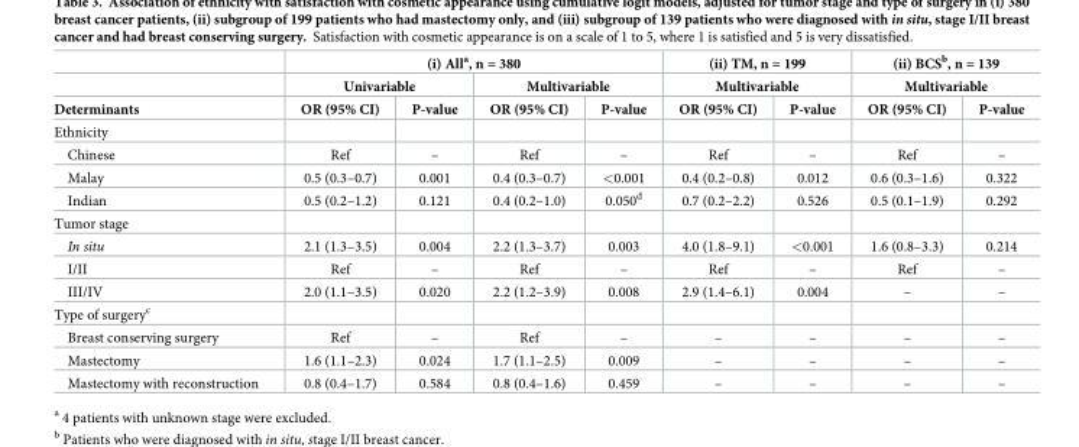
<table><thead><tr><td rowspan="3">Determinants</td><td colspan="4">(i) All<sup>a</sup>, n = 380</td><td rowspan="2" colspan="2">(ii) TM, n = 199 Multivariable</td><td rowspan="2" colspan="2">(ii) BCS<sup>b</sup>, n = 139 Multivariable</td></tr><tr><td colspan="2">Univariable</td><td colspan="2">Multivariable</td></tr><tr><td>OR (95% CI)</td><td>P-value</td><td>OR (95% CI)</td><td>P-value</td><td>OR (95% CI)</td><td>P-value</td><td>OR (95% CI)</td><td>P-value</td></tr></thead><tbody><tr><td colspan="9">Ethnicity</td></tr><tr><td>Chinese</td><td>Ref</td><td>–</td><td>Ref</td><td>–</td><td>Ref</td><td>–</td><td>Ref</td><td>–</td></tr><tr><td>Malay</td><td>0.5 (0.3–0.7)</td><td>0.001</td><td>0.4 (0.3–0.7)</td><td>&lt;0.001</td><td>0.4 (0.2–0.8)</td><td>0.012</td><td>0.6 (0.3–1.6)</td><td>0.322</td></tr><tr><td>Indian</td><td>0.5 (0.2–1.2)</td><td>0.121</td><td>0.4 (0.2–1.0)</td><td>0.050<sup>d</sup></td><td>0.7 (0.2–2.2)</td><td>0.526</td><td>0.5 (0.1–1.9)</td><td>0.292</td></tr><tr><td colspan="9">Tumor stage</td></tr><tr><td>In situ</td><td>2.1 (1.3–3.5)</td><td>0.004</td><td>2.2 (1.3–3.7)</td><td>0.003</td><td>4.0 (1.8–9.1)</td><td>&lt;0.001</td><td>1.6 (0.8–3.3)</td><td>0.214</td></tr><tr><td>I/II</td><td>Ref</td><td>–</td><td>Ref</td><td>–</td><td>Ref</td><td>–</td><td>Ref</td><td>–</td></tr><tr><td>III/IV</td><td>2.0 (1.1–3.5)</td><td>0.020</td><td>2.2 (1.2–3.9)</td><td>0.008</td><td>2.9 (1.4–6.1)</td><td>0.004</td><td>–</td><td>–</td></tr><tr><td colspan="9">Type of surgery<sup>c</sup></td></tr><tr><td>Breast conserving surgery</td><td>Ref</td><td>–</td><td>Ref</td><td>–</td><td>–</td><td>–</td><td>–</td><td>–</td></tr><tr><td>Mastectomy</td><td>1.6 (1.1–2.3)</td><td>0.024</td><td>1.7 (1.1–2.5)</td><td>0.009</td><td>–</td><td>–</td><td>–</td><td>–</td></tr><tr><td>Mastectomy with reconstruction</td><td>0.8 (0.4–1.7)</td><td>0.584</td><td>0.8 (0.4–1.6)</td><td>0.459</td><td>–</td><td>–</td><td>–</td><td>–</td></tr></tbody></table>